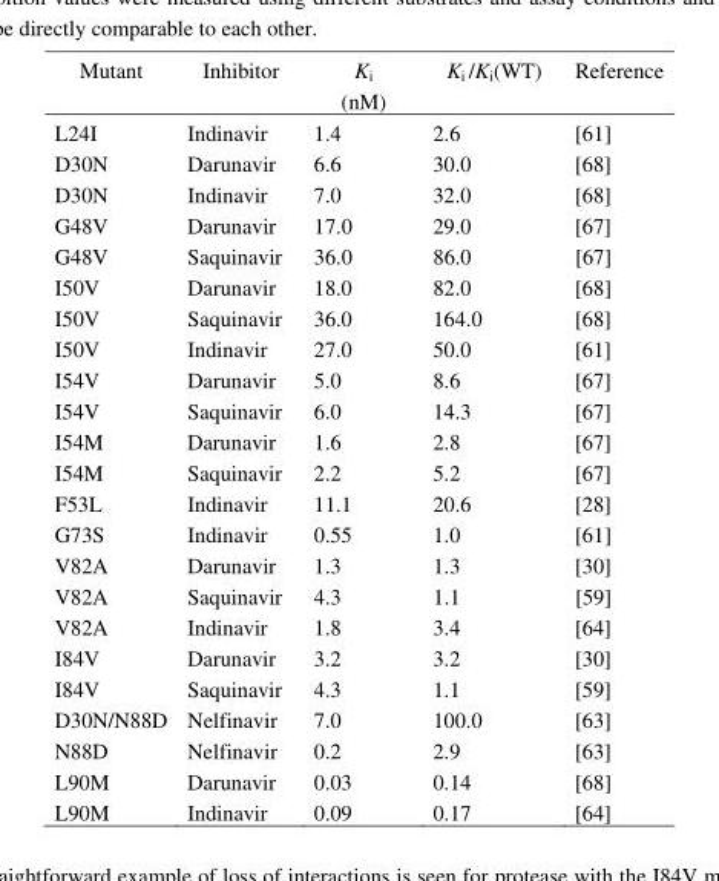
<table><thead><tr><td>Mutant</td><td>Inhibitor</td><td>K<sub>i</sub> (nM)</td><td>K<sub>i</sub> /K<sub>i</sub>(WT)</td><td>Reference</td></tr></thead><tbody><tr><td>L24I</td><td>Indinavir</td><td>1.4</td><td>2.6</td><td>[61]</td></tr><tr><td>D30N</td><td>Darunavir</td><td>6.6</td><td>30.0</td><td>[68]</td></tr><tr><td>D30N</td><td>Indinavir</td><td>7.0</td><td>32.0</td><td>[68]</td></tr><tr><td>G48V</td><td>Darunavir</td><td>17.0</td><td>29.0</td><td>[67]</td></tr><tr><td>G48V</td><td>Saquinavir</td><td>36.0</td><td>86.0</td><td>[67]</td></tr><tr><td>I50V</td><td>Darunavir</td><td>18.0</td><td>82.0</td><td>[68]</td></tr><tr><td>I50V</td><td>Saquinavir</td><td>36.0</td><td>164.0</td><td>[68]</td></tr><tr><td>I50V</td><td>Indinavir</td><td>27.0</td><td>50.0</td><td>[61]</td></tr><tr><td>I54V</td><td>Darunavir</td><td>5.0</td><td>8.6</td><td>[67]</td></tr><tr><td>I54V</td><td>Saquinavir</td><td>6.0</td><td>14.3</td><td>[67]</td></tr><tr><td>I54M</td><td>Darunavir</td><td>1.6</td><td>2.8</td><td>[67]</td></tr><tr><td>I54M</td><td>Saquinavir</td><td>2.2</td><td>5.2</td><td>[67]</td></tr><tr><td>F53L</td><td>Indinavir</td><td>11.1</td><td>20.6</td><td>[28]</td></tr><tr><td>G73S</td><td>Indinavir</td><td>0.55</td><td>1.0</td><td>[61]</td></tr><tr><td>V82A</td><td>Darunavir</td><td>1.3</td><td>1.3</td><td>[30]</td></tr><tr><td>V82A</td><td>Saquinavir</td><td>4.3</td><td>1.1</td><td>[59]</td></tr><tr><td>V82A</td><td>Indinavir</td><td>1.8</td><td>3.4</td><td>[64]</td></tr><tr><td>I84V</td><td>Darunavir</td><td>3.2</td><td>3.2</td><td>[30]</td></tr><tr><td>I84V</td><td>Saquinavir</td><td>4.3</td><td>1.1</td><td>[59]</td></tr><tr><td>D30N/N88D</td><td>Nelfinavir</td><td>7.0</td><td>100.0</td><td>[63]</td></tr><tr><td>N88D</td><td>Nelfinavir</td><td>0.2</td><td>2.9</td><td>[63]</td></tr><tr><td>L90M</td><td>Darunavir</td><td>0.03</td><td>0.14</td><td>[68]</td></tr><tr><td>L90M</td><td>Indinavir</td><td>0.09</td><td>0.17</td><td>[64]</td></tr></tbody></table>